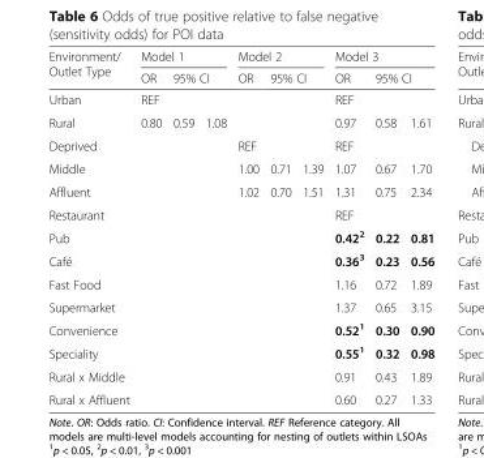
<table><thead><tr><td rowspan="3">Environment/ Outlet Type Urban</td><td colspan="3">Model 1</td><td colspan="3">Model 2</td><td colspan="3">Model 3</td></tr><tr><td rowspan="2">OR REF</td><td colspan="2">95% CI</td><td rowspan="2">OR</td><td colspan="2">95% CI</td><td rowspan="2">OR REF</td><td colspan="2">95% CI</td></tr><tr><td></td><td></td><td></td><td></td><td></td><td></td></tr></thead><tbody><tr><td>Rural</td><td>0.80</td><td>0.59</td><td>1.08</td><td></td><td></td><td></td><td>0.97</td><td>0.58</td><td>1.61</td></tr><tr><td>Deprived</td><td></td><td></td><td></td><td>REF</td><td></td><td></td><td>REF</td><td></td><td></td></tr><tr><td>Middle</td><td></td><td></td><td></td><td>1.00</td><td>0.71</td><td>1.39</td><td>1.07</td><td>0.67</td><td>1.70</td></tr><tr><td>Affluent</td><td></td><td></td><td></td><td>1.02</td><td>0.70</td><td>1.51</td><td>1.31</td><td>0.75</td><td>2.34</td></tr><tr><td>Restaurant</td><td></td><td></td><td></td><td></td><td></td><td></td><td>REF</td><td></td><td></td></tr><tr><td>Pub</td><td></td><td></td><td></td><td></td><td></td><td></td><td>0.42<sup>2</sup></td><td>0.22</td><td>0.81</td></tr><tr><td>Café</td><td></td><td></td><td></td><td></td><td></td><td></td><td>0.36<sup>3</sup></td><td>0.23</td><td>0.56</td></tr><tr><td>Fast Food</td><td></td><td></td><td></td><td></td><td></td><td></td><td>1.16</td><td>0.72</td><td>1.89</td></tr><tr><td>Supermarket</td><td></td><td></td><td></td><td></td><td></td><td></td><td>1.37</td><td>0.65</td><td>3.15</td></tr><tr><td>Convenience</td><td></td><td></td><td></td><td></td><td></td><td></td><td>0.52<sup>1</sup></td><td>0.30</td><td>0.90</td></tr><tr><td>Speciality</td><td></td><td></td><td></td><td></td><td></td><td></td><td>0.55<sup>1</sup></td><td>0.32</td><td>0.98</td></tr><tr><td>Rural x Middle</td><td></td><td></td><td></td><td></td><td></td><td></td><td>0.91</td><td>0.43</td><td>1.89</td></tr><tr><td>Rural x Affluent</td><td></td><td></td><td></td><td></td><td></td><td></td><td>0.60</td><td>0.27</td><td>1.33</td></tr></tbody></table>